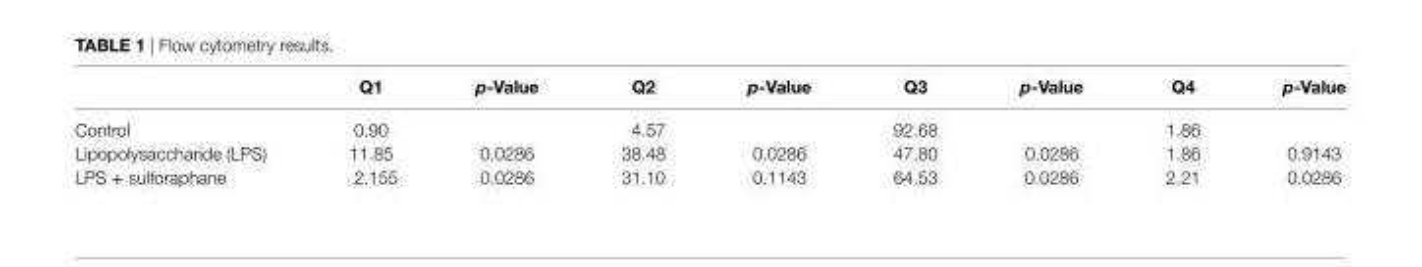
<table><thead><tr><td></td><td>Q1</td><td>p-Value</td><td>Q2</td><td>p-Value</td><td>Q3</td><td>p-Value</td><td>Q4</td><td>p-Value</td></tr></thead><tbody><tr><td>Control</td><td>0.90</td><td></td><td>4.57</td><td></td><td>92.68</td><td></td><td>1.86</td><td></td></tr><tr><td>Lipopolysaccharide (LPS)</td><td>11.85</td><td>0.0286</td><td>38.48</td><td>0.0286</td><td>47.80</td><td>0.0286</td><td>1.86</td><td>0.9143</td></tr><tr><td>LPS + sulforaphane</td><td>2.155</td><td>0.0286</td><td>31.10</td><td>0.1143</td><td>64.53</td><td>0.0286</td><td>2.21</td><td>0.0286</td></tr></tbody></table>